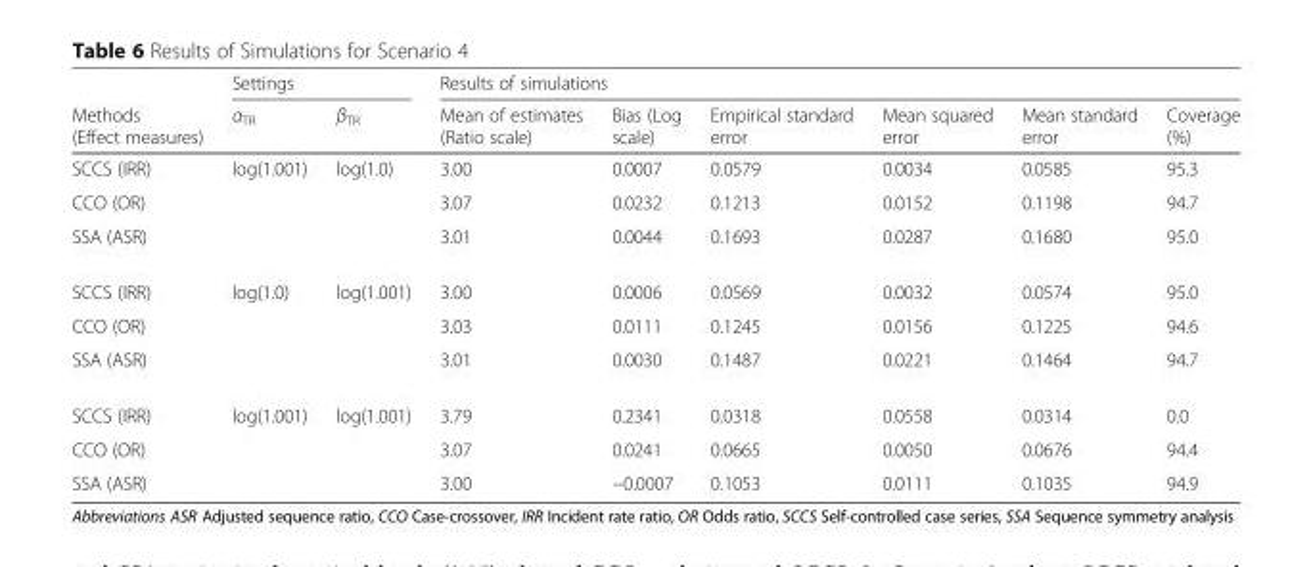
<table><thead><tr><td rowspan="2">Methods (Effect measures)</td><td colspan="2">Settings</td><td colspan="6">Results of simulations</td></tr><tr><td>α<sub>TR</sub></td><td>β<sub>TR</sub></td><td>Mean of estimates (Ratio scale)</td><td>Bias (Log scale)</td><td>Empirical standard error</td><td>Mean squared error</td><td>Mean standard error</td><td>Coverage (%)</td></tr></thead><tbody><tr><td>SCCS (IRR)</td><td>log(1.001)</td><td>log(1.0)</td><td>3.00</td><td>0.0007</td><td>0.0579</td><td>0.0034</td><td>0.0585</td><td>95.3</td></tr><tr><td>CCO (OR)</td><td></td><td></td><td>3.07</td><td>0.0232</td><td>0.1213</td><td>0.0152</td><td>0.1198</td><td>94.7</td></tr><tr><td>SSA (ASR)</td><td></td><td></td><td>3.01</td><td>0.0044</td><td>0.1693</td><td>0.0287</td><td>0.1680</td><td>95.0</td></tr><tr><td>SCCS (IRR)</td><td>log(1.0)</td><td>log(1.001)</td><td>3.00</td><td>0.0006</td><td>0.0569</td><td>0.0032</td><td>0.0574</td><td>95.0</td></tr><tr><td>CCO (OR)</td><td></td><td></td><td>3.03</td><td>0.0111</td><td>0.1245</td><td>0.0156</td><td>0.1225</td><td>94.6</td></tr><tr><td>SSA (ASR)</td><td></td><td></td><td>3.01</td><td>0.0030</td><td>0.1487</td><td>0.0221</td><td>0.1464</td><td>94.7</td></tr><tr><td>SCCS (IRR)</td><td>log(1.001)</td><td>log(1.001)</td><td>3.79</td><td>0.2341</td><td>0.0318</td><td>0.0558</td><td>0.0314</td><td>0.0</td></tr><tr><td>CCO (OR)</td><td></td><td></td><td>3.07</td><td>0.0241</td><td>0.0665</td><td>0.0050</td><td>0.0676</td><td>94.4</td></tr><tr><td>SSA (ASR)</td><td></td><td></td><td>3.00</td><td>−0.0007</td><td>0.1053</td><td>0.0111</td><td>0.1035</td><td>94.9</td></tr></tbody></table>